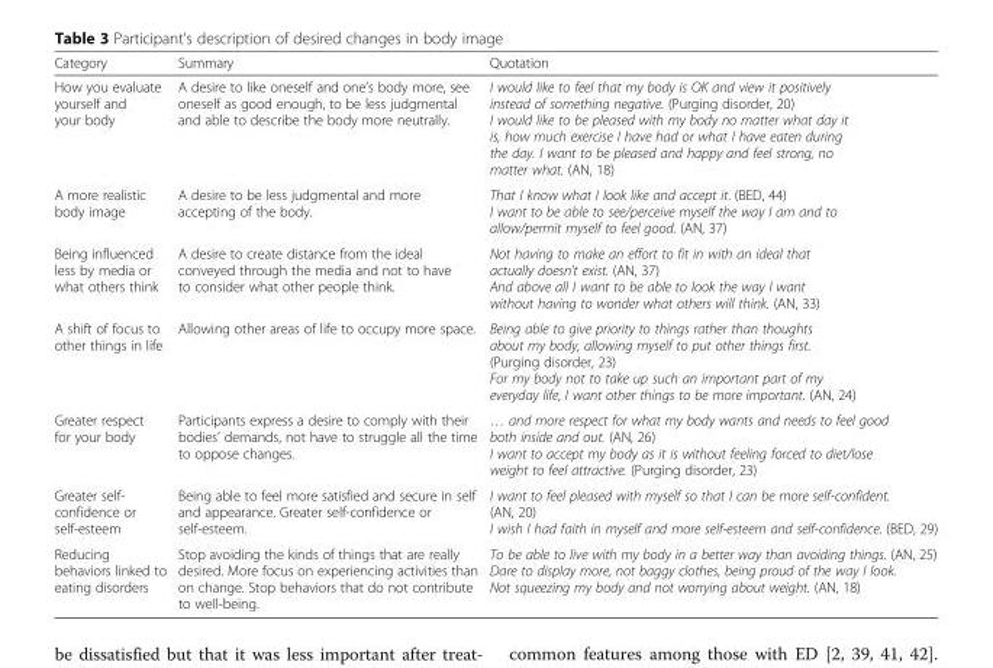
<table><thead><tr><td>Category</td><td>Summary</td><td>Quotation</td></tr></thead><tbody><tr><td>How you evaluate yourself and your body</td><td>A desire to like oneself and one’s body more, see oneself as good enough, to be less judgmental and able to describe the body more neutrally.</td><td>I would like to feel that my body is OK and view it positively instead of something negative. (Purging disorder, 20) I would like to be pleased with my body no matter what day it is, how much exercise I have had or what I have eaten during the day. I want to be pleased and happy and feel strong, no matter what. (AN, 18)</td></tr><tr><td>A more realistic body image</td><td>A desire to be less judgmental and more accepting of the body.</td><td>That I know what I look like and accept it. (BED, 44) I want to be able to see/perceive myself the way I am and to allow/permit myself to feel good. (AN, 37)</td></tr><tr><td>Being influenced less by media or what others think</td><td>A desire to create distance from the ideal conveyed through the media and not to have to consider what other people think.</td><td>Not having to make an effort to fit in with an ideal that actually doesn’t exist. (AN, 37) And above all I want to be able to look the way I want without having to wonder what others will think. (AN, 33)</td></tr><tr><td>A shift of focus to other things in life</td><td>Allowing other areas of life to occupy more space.</td><td>Being able to give priority to things rather than thoughts about my body, allowing myself to put other things first. (Purging disorder, 23) For my body not to take up such an important part of my everyday life, I want other things to be more important. (AN, 24)</td></tr><tr><td>Greater respect for your body</td><td>Participants express a desire to comply with their bodies’ demands, not have to struggle all the time to oppose changes.</td><td>… and more respect for what my body wants and needs to feel good both inside and out. (AN, 26) I want to accept my body as it is without feeling forced to diet/lose weight to feel attractive. (Purging disorder, 23)</td></tr><tr><td>Greater self- confidence or self-esteem</td><td>Being able to feel more satisfied and secure in self and appearance. Greater self-confidence or self-esteem.</td><td>I want to feel pleased with myself so that I can be more self-confident. (AN, 20) I wish I had faith in myself and more self-esteem and self-confidence. (BED, 29)</td></tr><tr><td>Reducing behaviors linked to eating disorders</td><td>Stop avoiding the kinds of things that are really desired. More focus on experiencing activities than on change. Stop behaviors that do not contribute to well-being.</td><td>To be able to live with my body in a better way than avoiding things. (AN, 25) Dare to display more, not baggy clothes, being proud of the way I look. Not squeezing my body and not worrying about weight. (AN, 18)</td></tr></tbody></table>